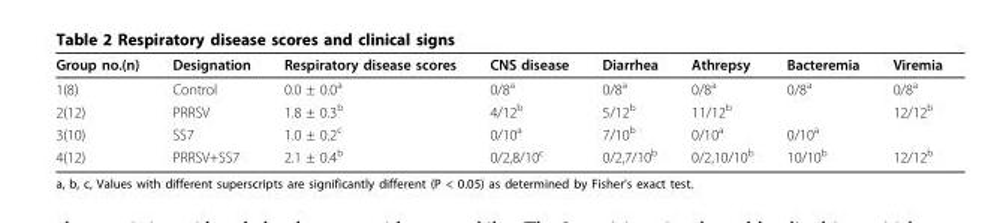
<table><thead><tr><td>Group no.(n)</td><td>Designation</td><td>Respiratory disease scores</td><td>CNS disease</td><td>Diarrhea</td><td>Athrepsy</td><td>Bacteremia</td><td>Viremia</td></tr></thead><tbody><tr><td>1(8)</td><td>Control</td><td>0.0 ± 0.0<sup>a</sup></td><td>0/8<sup>a</sup></td><td>0/8<sup>a</sup></td><td>0/8<sup>a</sup></td><td>0/8<sup>a</sup></td><td>0/8<sup>a</sup></td></tr><tr><td>2(12)</td><td>PRRSV</td><td>1.8 ± 0.3<sup>b</sup></td><td>4/12<sup>b</sup></td><td>5/12<sup>b</sup></td><td>11/12<sup>b</sup></td><td></td><td>12/12<sup>b</sup></td></tr><tr><td>3(10)</td><td>SS7</td><td>1.0 ± 0.2<sup>c</sup></td><td>0/10<sup>a</sup></td><td>7/10<sup>b</sup></td><td>0/10<sup>a</sup></td><td>0/10<sup>a</sup></td><td></td></tr><tr><td>4(12)</td><td>PRRSV+SS7</td><td>2.1 ± 0.4<sup>b</sup></td><td>0/2,8/10<sup>c</sup></td><td>0/2,7/10<sup>b</sup></td><td>0/2,10/10<sup>b</sup></td><td>10/10<sup>b</sup></td><td>12/12<sup>b</sup></td></tr></tbody></table>